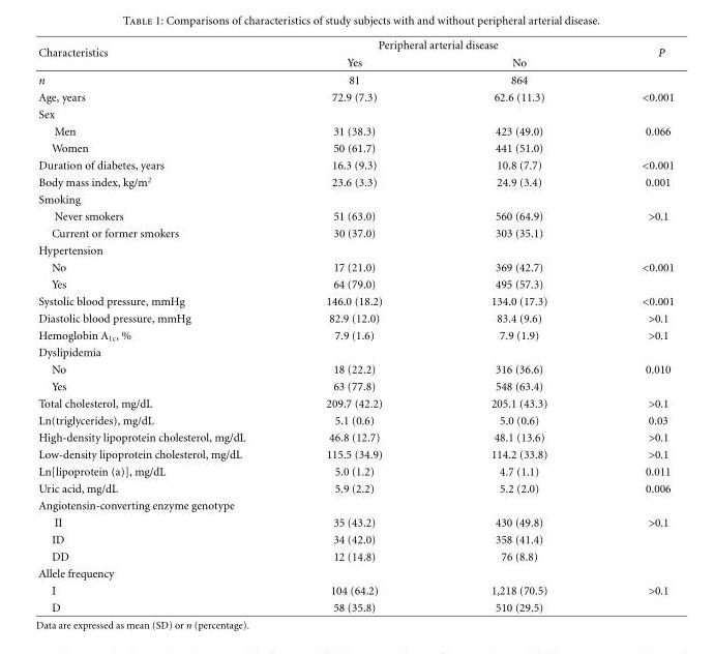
<table><thead><tr><td rowspan="2">Characteristics</td><td colspan="2">Peripheral arterial disease</td><td rowspan="2">P</td></tr><tr><td>Yes</td><td>No</td></tr></thead><tbody><tr><td>n</td><td>81</td><td>864</td><td></td></tr><tr><td>Age, years</td><td>72.9 (7.3)</td><td>62.6 (11.3)</td><td>&lt;0.001</td></tr><tr><td colspan="4">Sex</td></tr><tr><td>Men</td><td>31 (38.3)</td><td>423 (49.0)</td><td>0.066</td></tr><tr><td>Women</td><td>50 (61.7)</td><td>441 (51.0)</td><td></td></tr><tr><td>Duration of diabetes, years</td><td>16.3 (9.3)</td><td>10.8 (7.7)</td><td>&lt;0.001</td></tr><tr><td>Body mass index, kg/m<sup>2</sup></td><td>23.6 (3.3)</td><td>24.9 (3.4)</td><td>0.001</td></tr><tr><td colspan="4">Smoking</td></tr><tr><td>Never smokers</td><td>51 (63.0)</td><td>560 (64.9)</td><td>&gt;0.1</td></tr><tr><td>Current or former smokers</td><td>30 (37.0)</td><td>303 (35.1)</td><td></td></tr><tr><td colspan="4">Hypertension</td></tr><tr><td>No</td><td>17 (21.0)</td><td>369 (42.7)</td><td>&lt;0.001</td></tr><tr><td>Yes</td><td>64 (79.0)</td><td>495 (57.3)</td><td></td></tr><tr><td>Systolic blood pressure, mmHg</td><td>146.0 (18.2)</td><td>134.0 (17.3)</td><td>&lt;0.001</td></tr><tr><td>Diastolic blood pressure, mmHg</td><td>82.9 (12.0)</td><td>83.4 (9.6)</td><td>&gt;0.1</td></tr><tr><td>Hemoglobin A<sub>1c</sub>, %</td><td>7.9 (1.6)</td><td>7.9 (1.9)</td><td>&gt;0.1</td></tr><tr><td colspan="4">Dyslipidemia</td></tr><tr><td>No</td><td>18 (22.2)</td><td>316 (36.6)</td><td>0.010</td></tr><tr><td>Yes</td><td>63 (77.8)</td><td>548 (63.4)</td><td></td></tr><tr><td>Total cholesterol, mg/dL</td><td>209.7 (42.2)</td><td>205.1 (43.3)</td><td>&gt;0.1</td></tr><tr><td>Ln(triglycerides), mg/dL</td><td>5.1 (0.6)</td><td>5.0 (0.6)</td><td>0.03</td></tr><tr><td>High-density lipoprotein cholesterol, mg/dL</td><td>46.8 (12.7)</td><td>48.1 (13.6)</td><td>&gt;0.1</td></tr><tr><td>Low-density lipoprotein cholesterol, mg/dL</td><td>115.5 (34.9)</td><td>114.2 (33.8)</td><td>&gt;0.1</td></tr><tr><td>Ln[lipoprotein (a)], mg/dL</td><td>5.0 (1.2)</td><td>4.7 (1.1)</td><td>0.011</td></tr><tr><td>Uric acid, mg/dL</td><td>5.9 (2.2)</td><td>5.2 (2.0)</td><td>0.006</td></tr><tr><td colspan="4">Angiotensin-converting enzyme genotype</td></tr><tr><td>II</td><td>35 (43.2)</td><td>430 (49.8)</td><td>&gt;0.1</td></tr><tr><td>ID</td><td>34 (42.0)</td><td>358 (41.4)</td><td></td></tr><tr><td>DD</td><td>12 (14.8)</td><td>76 (8.8)</td><td></td></tr><tr><td colspan="4">Allele frequency</td></tr><tr><td>I</td><td>104 (64.2)</td><td>1,218 (70.5)</td><td>&gt;0.1</td></tr><tr><td>D</td><td>58 (35.8)</td><td>510 (29.5)</td><td></td></tr></tbody></table>